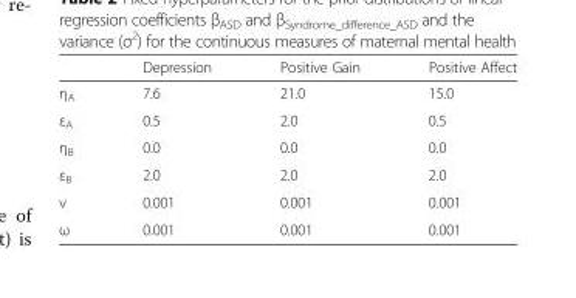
<table><thead><tr><td></td><td>Depression</td><td>Positive Gain</td><td>Positive Affect</td></tr></thead><tbody><tr><td>η<sub>A</sub></td><td>7.6</td><td>21.0</td><td>15.0</td></tr><tr><td>ε<sub>A</sub></td><td>0.5</td><td>2.0</td><td>0.5</td></tr><tr><td>η<sub>B</sub></td><td>0.0</td><td>0.0</td><td>0.0</td></tr><tr><td>ε<sub>B</sub></td><td>2.0</td><td>2.0</td><td>2.0</td></tr><tr><td>ν</td><td>0.001</td><td>0.001</td><td>0.001</td></tr><tr><td>ω</td><td>0.001</td><td>0.001</td><td>0.001</td></tr></tbody></table>